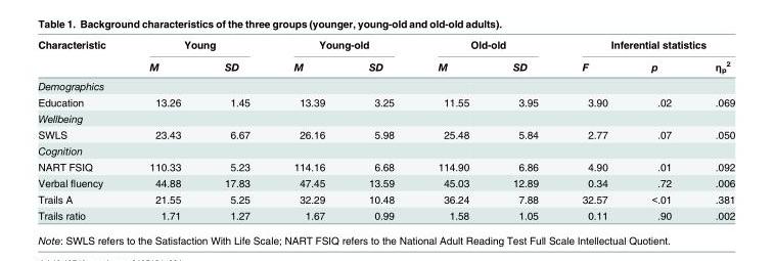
<table><thead><tr><td rowspan="2">Characteristic</td><td colspan="2">Young</td><td colspan="2">Young-old</td><td colspan="2">Old-old</td><td colspan="3">Inferential statistics</td></tr><tr><td>M</td><td>SD</td><td>M</td><td>SD</td><td>M</td><td>SD</td><td>F</td><td>p</td><td>η<sub>p</sub> <sup>2</sup></td></tr></thead><tbody><tr><td colspan="10">Demographics</td></tr><tr><td>Education</td><td>13.26</td><td>1.45</td><td>13.39</td><td>3.25</td><td>11.55</td><td>3.95</td><td>3.90</td><td>.02</td><td>.069</td></tr><tr><td colspan="10">Wellbeing</td></tr><tr><td>SWLS</td><td>23.43</td><td>6.67</td><td>26.16</td><td>5.98</td><td>25.48</td><td>5.84</td><td>2.77</td><td>.07</td><td>.050</td></tr><tr><td colspan="10">Cognition</td></tr><tr><td>NART FSIQ</td><td>110.33</td><td>5.23</td><td>114.16</td><td>6.68</td><td>114.90</td><td>6.86</td><td>4.90</td><td>.01</td><td>.092</td></tr><tr><td>Verbal fluency</td><td>44.88</td><td>17.83</td><td>47.45</td><td>13.59</td><td>45.03</td><td>12.89</td><td>0.34</td><td>.72</td><td>.006</td></tr><tr><td>Trails A</td><td>21.55</td><td>5.25</td><td>32.29</td><td>10.48</td><td>36.24</td><td>7.88</td><td>32.57</td><td>&lt;.01</td><td>.381</td></tr><tr><td>Trails ratio</td><td>1.71</td><td>1.27</td><td>1.67</td><td>0.99</td><td>1.58</td><td>1.05</td><td>0.11</td><td>.90</td><td>.002</td></tr></tbody></table>